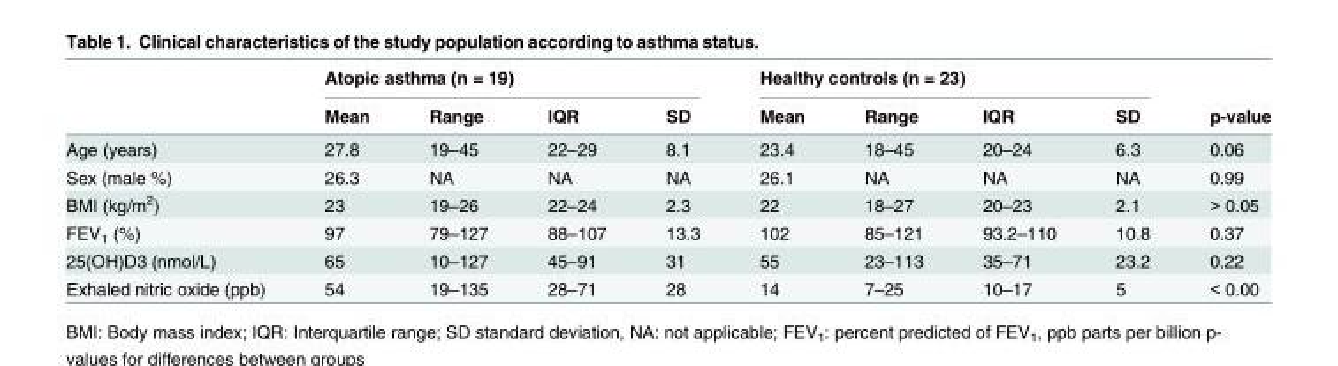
<table><thead><tr><td rowspan="2"></td><td colspan="4">Atopic asthma (n = 19)</td><td colspan="4">Healthy controls (n = 23)</td><td rowspan="2">p-value</td></tr><tr><td>Mean</td><td>Range</td><td>IQR</td><td>SD</td><td>Mean</td><td>Range</td><td>IQR</td><td>SD</td></tr></thead><tbody><tr><td>Age (years)</td><td>27.8</td><td>19–45</td><td>22–29</td><td>8.1</td><td>23.4</td><td>18–45</td><td>20–24</td><td>6.3</td><td>0.06</td></tr><tr><td>Sex (male %)</td><td>26.3</td><td>NA</td><td>NA</td><td>NA</td><td>26.1</td><td>NA</td><td>NA</td><td>NA</td><td>0.99</td></tr><tr><td>BMI (kg/m<sup>2</sup>)</td><td>23</td><td>19–26</td><td>22–24</td><td>2.3</td><td>22</td><td>18–27</td><td>20–23</td><td>2.1</td><td>&gt; 0.05</td></tr><tr><td>FEV<sub>1</sub> (%)</td><td>97</td><td>79–127</td><td>88–107</td><td>13.3</td><td>102</td><td>85–121</td><td>93.2–110</td><td>10.8</td><td>0.37</td></tr><tr><td>25(OH)D3 (nmol/L)</td><td>65</td><td>10–127</td><td>45–91</td><td>31</td><td>55</td><td>23–113</td><td>35–71</td><td>23.2</td><td>0.22</td></tr><tr><td>Exhaled nitric oxide (ppb)</td><td>54</td><td>19–135</td><td>28–71</td><td>28</td><td>14</td><td>7–25</td><td>10–17</td><td>5</td><td>&lt; 0.00</td></tr></tbody></table>